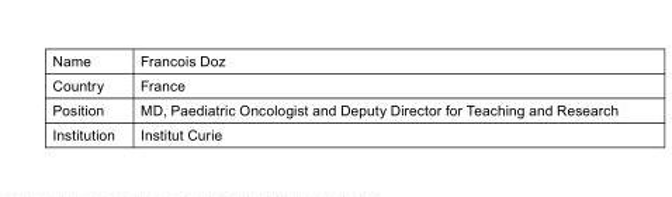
<table><tbody><tr><td>Name</td><td>Francois Doz</td></tr><tr><td>Country</td><td>France</td></tr><tr><td>Position</td><td>MD, Paediatric Oncologist and Deputy Director for Teaching and Research</td></tr><tr><td>Institution</td><td>Institut Curie</td></tr></tbody></table>